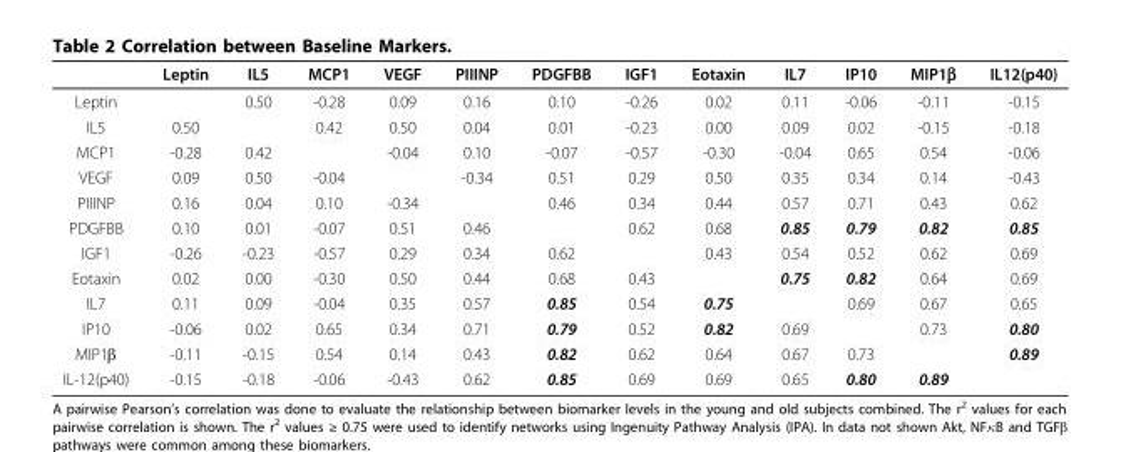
<table><thead><tr><td></td><td>Leptin</td><td>IL5</td><td>MCP1</td><td>VEGF</td><td>PIIINP</td><td>PDGFBB</td><td>IGF1</td><td>Eotaxin</td><td>IL7</td><td>IP10</td><td>MIP1β</td><td>IL12(p40)</td></tr></thead><tbody><tr><td>Leptin</td><td></td><td>0.50</td><td>-0.28</td><td>0.09</td><td>0.16</td><td>0.10</td><td>-0.26</td><td>0.02</td><td>0.11</td><td>-0.06</td><td>-0.11</td><td>-0.15</td></tr><tr><td>IL5</td><td>0.50</td><td></td><td>0.42</td><td>0.50</td><td>0.04</td><td>0.01</td><td>-0.23</td><td>0.00</td><td>0.09</td><td>0.02</td><td>-0.15</td><td>-0.18</td></tr><tr><td>MCP1</td><td>-0.28</td><td>0.42</td><td></td><td>-0.04</td><td>0.10</td><td>-0.07</td><td>-0.57</td><td>-0.30</td><td>-0.04</td><td>0.65</td><td>0.54</td><td>-0.06</td></tr><tr><td>VEGF</td><td>0.09</td><td>0.50</td><td>-0.04</td><td></td><td>-0.34</td><td>0.51</td><td>0.29</td><td>0.50</td><td>0.35</td><td>0.34</td><td>0.14</td><td>-0.43</td></tr><tr><td>PIIINP</td><td>0.16</td><td>0.04</td><td>0.10</td><td>-0.34</td><td></td><td>0.46</td><td>0.34</td><td>0.44</td><td>0.57</td><td>0.71</td><td>0.43</td><td>0.62</td></tr><tr><td>PDGFBB</td><td>0.10</td><td>0.01</td><td>-0.07</td><td>0.51</td><td>0.46</td><td></td><td>0.62</td><td>0.68</td><td>0.85</td><td>0.79</td><td>0.82</td><td>0.85</td></tr><tr><td>IGF1</td><td>-0.26</td><td>-0.23</td><td>-0.57</td><td>0.29</td><td>0.34</td><td>0.62</td><td></td><td>0.43</td><td>0.54</td><td>0.52</td><td>0.62</td><td>0.69</td></tr><tr><td>Eotaxin</td><td>0.02</td><td>0.00</td><td>-0.30</td><td>0.50</td><td>0.44</td><td>0.68</td><td>0.43</td><td></td><td>0.75</td><td>0.82</td><td>0.64</td><td>0.69</td></tr><tr><td>IL7</td><td>0.11</td><td>0.09</td><td>-0.04</td><td>0.35</td><td>0.57</td><td>0.85</td><td>0.54</td><td>0.75</td><td></td><td>0.69</td><td>0.67</td><td>0.65</td></tr><tr><td>IP10</td><td>-0.06</td><td>0.02</td><td>0.65</td><td>0.34</td><td>0.71</td><td>0.79</td><td>0.52</td><td>0.82</td><td>0.69</td><td></td><td>0.73</td><td>0.80</td></tr><tr><td>MIP1β</td><td>-0.11</td><td>-0.15</td><td>0.54</td><td>0.14</td><td>0.43</td><td>0.82</td><td>0.62</td><td>0.64</td><td>0.67</td><td>0.73</td><td></td><td>0.89</td></tr><tr><td>IL-12(p40)</td><td>-0.15</td><td>-0.18</td><td>-0.06</td><td>-0.43</td><td>0.62</td><td>0.85</td><td>0.69</td><td>0.69</td><td>0.65</td><td>0.80</td><td>0.89</td><td></td></tr></tbody></table>